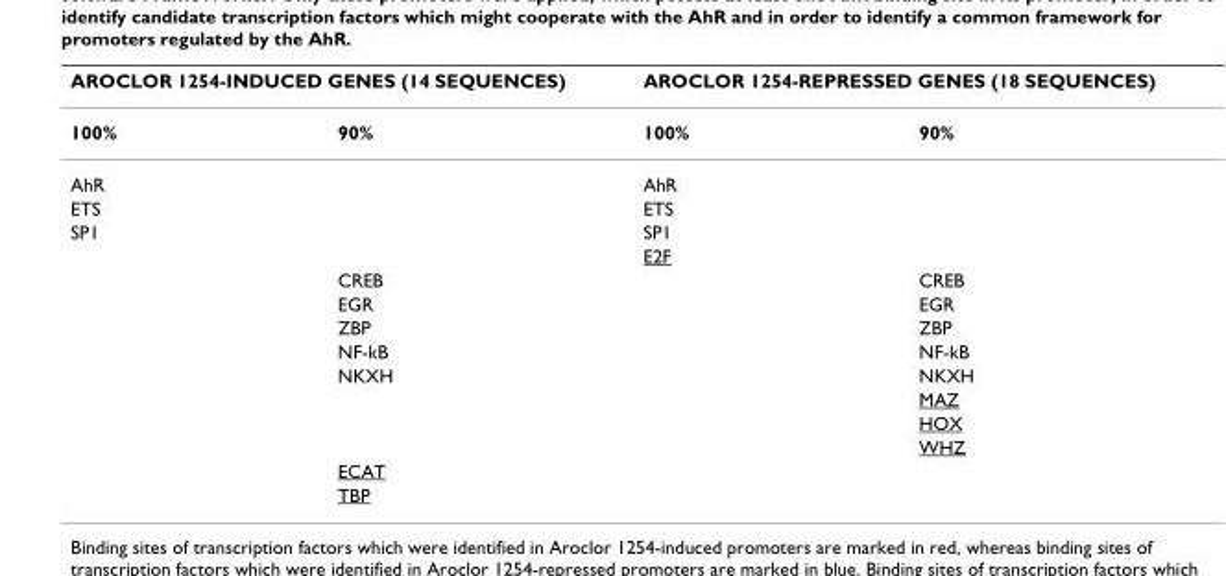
<table><thead><tr><td colspan="2">AROCLOR 1254-INDUCED GENES (14 SEQUENCES)</td><td colspan="2">AROCLOR 1254-REPRESSED GENES (18 SEQUENCES)</td></tr><tr><td>100%</td><td>90%</td><td>100%</td><td>90%</td></tr></thead><tbody><tr><td>AhR</td><td></td><td>AhR</td><td></td></tr><tr><td>ETS</td><td></td><td>ETS</td><td></td></tr><tr><td rowspan="12">SP1</td><td></td><td>SP1</td><td></td></tr><tr><td></td><td>E2F</td><td></td></tr><tr><td>CREB</td><td></td><td>CREB</td></tr><tr><td>EGR</td><td></td><td>EGR</td></tr><tr><td>ZBP</td><td></td><td>ZBP</td></tr><tr><td>NF-kB</td><td></td><td>NF-kB</td></tr><tr><td>NKXH</td><td></td><td>NKXH</td></tr><tr><td></td><td></td><td>MAZ</td></tr><tr><td></td><td></td><td>HOX</td></tr><tr><td></td><td></td><td>WHZ</td></tr><tr><td>ECAT</td><td></td><td></td></tr><tr><td>TBP</td><td></td><td></td></tr></tbody></table>